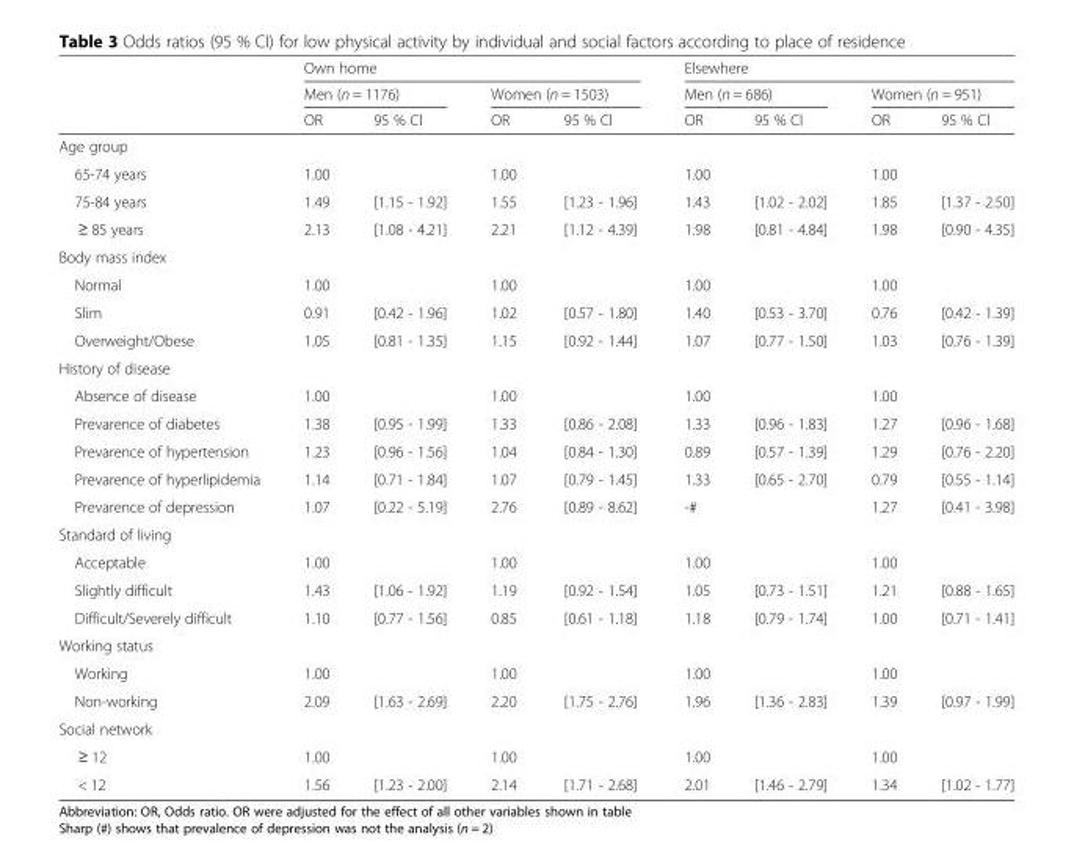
<table><thead><tr><td rowspan="3"></td><td colspan="4">Own home</td><td colspan="4">Elsewhere</td></tr><tr><td colspan="2">Men (n = 1176)</td><td colspan="2">Women (n = 1503)</td><td colspan="2">Men (n = 686)</td><td colspan="2">Women (n = 951)</td></tr><tr><td>OR</td><td>95 % Cl</td><td>OR</td><td>95 % Cl</td><td>OR</td><td>95 % Cl</td><td>OR</td><td>95 % Cl</td></tr></thead><tbody><tr><td colspan="9">Age group</td></tr><tr><td>65-74 years</td><td>1.00</td><td></td><td>1.00</td><td></td><td>1.00</td><td></td><td>1.00</td><td></td></tr><tr><td>75-84 years</td><td>1.49</td><td>[1.15 - 1.92]</td><td>1.55</td><td>[1.23 - 1.96]</td><td>1.43</td><td>[1.02 - 2.02]</td><td>1.85</td><td>[1.37 - 2.50]</td></tr><tr><td>≥ 85 years</td><td>2.13</td><td>[1.08 - 4.21]</td><td>2.21</td><td>[1.12 - 4.39]</td><td>1.98</td><td>[0.81 - 4.84]</td><td>1.98</td><td>[0.90 - 4.35]</td></tr><tr><td colspan="9">Body mass index</td></tr><tr><td>Normal</td><td>1.00</td><td></td><td>1.00</td><td></td><td>1.00</td><td></td><td>1.00</td><td></td></tr><tr><td>Slim</td><td>0.91</td><td>[0.42 - 1.96]</td><td>1.02</td><td>[0.57 - 1.80]</td><td>1.40</td><td>[0.53 - 3.70]</td><td>0.76</td><td>[0.42 - 1.39]</td></tr><tr><td>Overweight/Obese</td><td>1.05</td><td>[0.81 - 1.35]</td><td>1.15</td><td>[0.92 - 1.44]</td><td>1.07</td><td>[0.77 - 1.50]</td><td>1.03</td><td>[0.76 - 1.39]</td></tr><tr><td colspan="9">History of disease</td></tr><tr><td>Absence of disease</td><td>1.00</td><td></td><td>1.00</td><td></td><td>1.00</td><td></td><td>1.00</td><td></td></tr><tr><td>Prevarence of diabetes</td><td>1.38</td><td>[0.95 - 1.99]</td><td>1.33</td><td>[0.86 - 2.08]</td><td>1.33</td><td>[0.96 - 1.83]</td><td>1.27</td><td>[0.96 - 1.68]</td></tr><tr><td>Prevarence of hypertension</td><td>1.23</td><td>[0.96 - 1.56]</td><td>1.04</td><td>[0.84 - 1.30]</td><td>0.89</td><td>[0.57 - 1.39]</td><td>1.29</td><td>[0.76 - 2.20]</td></tr><tr><td>Prevarence of hyperlipidemia</td><td>1.14</td><td>[0.71 - 1.84]</td><td>1.07</td><td>[0.79 - 1.45]</td><td>1.33</td><td>[0.65 - 2.70]</td><td>0.79</td><td>[0.55 - 1.14]</td></tr><tr><td>Prevarence of depression</td><td>1.07</td><td>[0.22 - 5.19]</td><td>2.76</td><td>[0.89 - 8.62]</td><td>-#</td><td></td><td>1.27</td><td>[0.41 - 3.98]</td></tr><tr><td colspan="9">Standard of living</td></tr><tr><td>Acceptable</td><td>1.00</td><td></td><td>1.00</td><td></td><td>1.00</td><td></td><td>1.00</td><td></td></tr><tr><td>Slightly difficult</td><td>1.43</td><td>[1.06 - 1.92]</td><td>1.19</td><td>[0.92 - 1.54]</td><td>1.05</td><td>[0.73 - 1.51]</td><td>1.21</td><td>[0.88 - 1.65]</td></tr><tr><td>Difficult/Severely difficult</td><td>1.10</td><td>[0.77 - 1.56]</td><td>0.85</td><td>[0.61 - 1.18]</td><td>1.18</td><td>[0.79 - 1.74]</td><td>1.00</td><td>[0.71 - 1.41]</td></tr><tr><td colspan="9">Working status</td></tr><tr><td>Working</td><td>1.00</td><td></td><td>1.00</td><td></td><td>1.00</td><td></td><td>1.00</td><td></td></tr><tr><td>Non-working</td><td>2.09</td><td>[1.63 - 2.69]</td><td>2.20</td><td>[1.75 - 2.76]</td><td>1.96</td><td>[1.36 - 2.83]</td><td>1.39</td><td>[0.97 - 1.99]</td></tr><tr><td colspan="9">Social network</td></tr><tr><td>≥ 12</td><td>1.00</td><td></td><td>1.00</td><td></td><td>1.00</td><td></td><td>1.00</td><td></td></tr><tr><td>&lt; 12</td><td>1.56</td><td>[1.23 - 2.00]</td><td>2.14</td><td>[1.71 - 2.68]</td><td>2.01</td><td>[1.46 - 2.79]</td><td>1.34</td><td>[1.02 - 1.77]</td></tr></tbody></table>